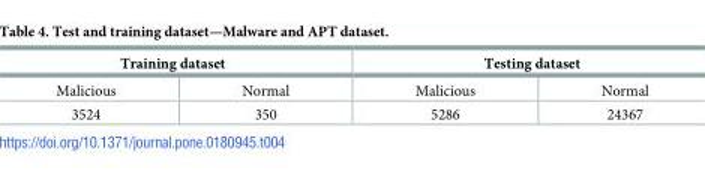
<table><thead><tr><td colspan="2">Training dataset</td><td colspan="2">Testing dataset</td></tr><tr><td>Malicious</td><td>Normal</td><td>Malicious</td><td>Normal</td></tr></thead><tbody><tr><td>3524</td><td>350</td><td>5286</td><td>24367</td></tr></tbody></table>